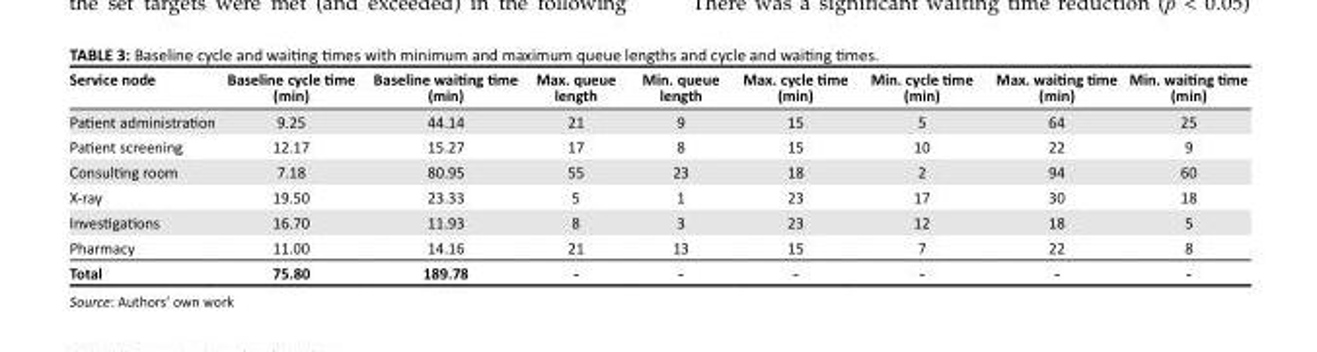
<table><thead><tr><td>Service node</td><td>Baseline cycle time (min)</td><td>Baseline waiting time (min)</td><td>Max. queue length</td><td>Min. queue length</td><td>Max. cycle time (min)</td><td>Min. cycle time (min)</td><td>Max. waiting time (min)</td><td>Min. waiting time (min)</td></tr></thead><tbody><tr><td>Patient administration</td><td>9.25</td><td>44.14</td><td>21</td><td>9</td><td>15</td><td>5</td><td>64</td><td>25</td></tr><tr><td>Patient screening</td><td>12.17</td><td>15.27</td><td>17</td><td>8</td><td>15</td><td>10</td><td>22</td><td>9</td></tr><tr><td>Consulting room</td><td>7.18</td><td>80.95</td><td>55</td><td>23</td><td>18</td><td>2</td><td>94</td><td>60</td></tr><tr><td>X-ray</td><td>19.50</td><td>23.33</td><td>5</td><td>1</td><td>23</td><td>17</td><td>30</td><td>18</td></tr><tr><td>Investigations</td><td>16.70</td><td>11.93</td><td>8</td><td>3</td><td>23</td><td>12</td><td>18</td><td>5</td></tr><tr><td>Pharmacy</td><td>11.00</td><td>14.16</td><td>21</td><td>13</td><td>15</td><td>7</td><td>22</td><td>8</td></tr><tr><td>Total</td><td>75.80</td><td>189.78</td><td>-</td><td>-</td><td>-</td><td>-</td><td>-</td><td>-</td></tr></tbody></table>